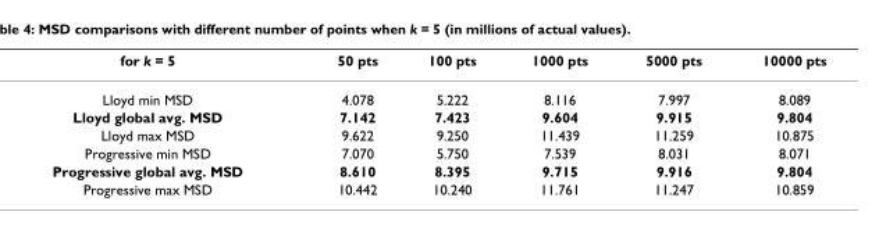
<table><thead><tr><td>for k = 5</td><td>50 pts</td><td>100 pts</td><td>1000 pts</td><td>5000 pts</td><td>10000 pts</td></tr></thead><tbody><tr><td>Lloyd min MSD</td><td>4.078</td><td>5.222</td><td>8.116</td><td>7.997</td><td>8.089</td></tr><tr><td>Lloyd global avg. MSD</td><td>7.142</td><td>7.423</td><td>9.604</td><td>9.915</td><td>9.804</td></tr><tr><td>Lloyd max MSD</td><td>9.622</td><td>9.250</td><td>11.439</td><td>11.259</td><td>10.875</td></tr><tr><td>Progressive min MSD</td><td>7.070</td><td>5.750</td><td>7.539</td><td>8.031</td><td>8.071</td></tr><tr><td>Progressive global avg. MSD</td><td>8.610</td><td>8.395</td><td>9.715</td><td>9.916</td><td>9.804</td></tr><tr><td>Progressive max MSD</td><td>10.442</td><td>10.240</td><td>11.761</td><td>11.247</td><td>10.859</td></tr></tbody></table>